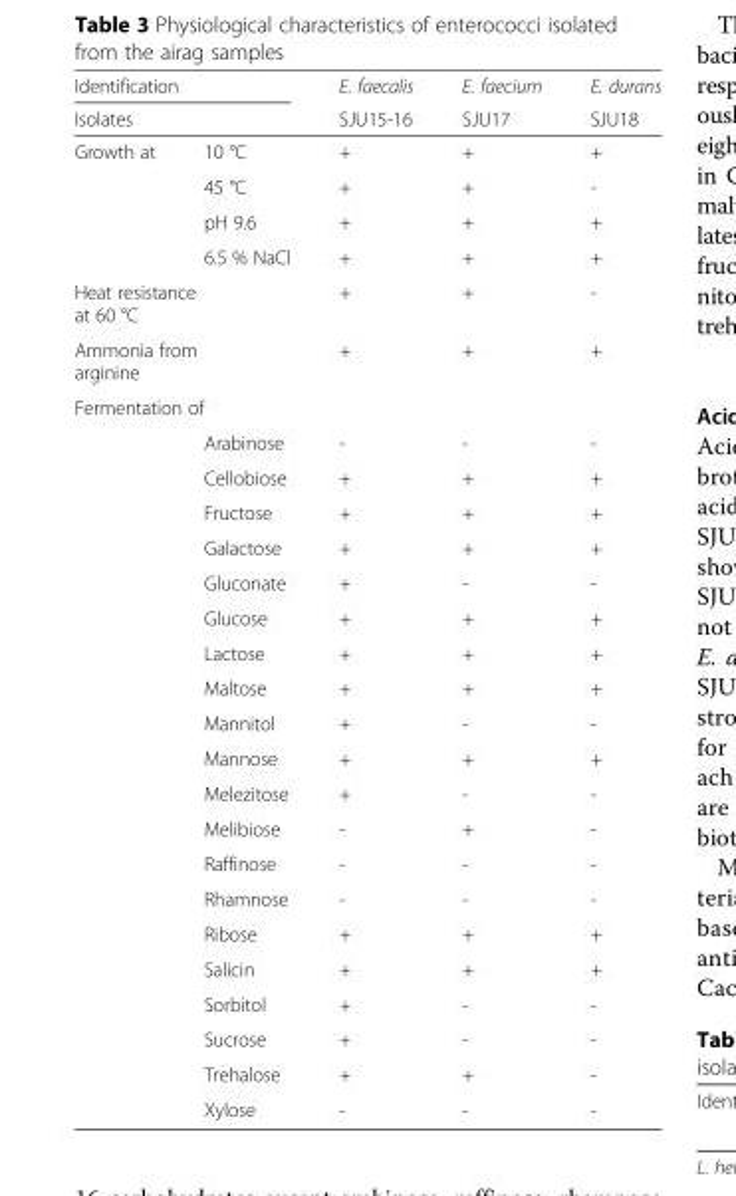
<table><thead><tr><td rowspan="2" colspan="2">Identification Isolates</td><td rowspan="3">E. faecalis SJU15-16 +</td><td rowspan="3">E. faecium SJU17 +</td><td rowspan="3">E. durans SJU18 +</td></tr><tr></tr><tr><td>Growth at</td><td>10 °C</td></tr></thead><tbody><tr><td></td><td>45 °C</td><td>+</td><td>+</td><td>-</td></tr><tr><td></td><td>pH 9.6</td><td>+</td><td>+</td><td>+</td></tr><tr><td></td><td>6.5 % NaCl</td><td>+</td><td>+</td><td>+</td></tr><tr><td colspan="2">Heat resistance at 60 °C</td><td>+</td><td>+</td><td>-</td></tr><tr><td colspan="2">Ammonia from arginine</td><td>+</td><td>+</td><td>+</td></tr><tr><td colspan="5">Fermentation of</td></tr><tr><td></td><td>Arabinose</td><td>-</td><td>-</td><td>-</td></tr><tr><td></td><td>Cellobiose</td><td>+</td><td>+</td><td>+</td></tr><tr><td></td><td>Fructose</td><td>+</td><td>+</td><td>+</td></tr><tr><td></td><td>Galactose</td><td>+</td><td>+</td><td>+</td></tr><tr><td></td><td>Gluconate</td><td>+</td><td>-</td><td>-</td></tr><tr><td></td><td>Glucose</td><td>+</td><td>+</td><td>+</td></tr><tr><td></td><td>Lactose</td><td>+</td><td>+</td><td>+</td></tr><tr><td></td><td>Maltose</td><td>+</td><td>+</td><td>+</td></tr><tr><td></td><td>Mannitol</td><td>+</td><td>-</td><td>-</td></tr><tr><td></td><td>Mannose</td><td>+</td><td>+</td><td>+</td></tr><tr><td></td><td>Melezitose</td><td>+</td><td>-</td><td>-</td></tr><tr><td></td><td>Melibiose</td><td>-</td><td>+</td><td>-</td></tr><tr><td></td><td>Raffinose</td><td>-</td><td>-</td><td>-</td></tr><tr><td></td><td>Rhamnose</td><td>-</td><td>-</td><td>-</td></tr><tr><td></td><td>Ribose</td><td>+</td><td>+</td><td>+</td></tr><tr><td></td><td>Salicin</td><td>+</td><td>+</td><td>+</td></tr><tr><td></td><td>Sorbitol</td><td>+</td><td>-</td><td>-</td></tr><tr><td></td><td>Sucrose</td><td>+</td><td>-</td><td>-</td></tr><tr><td></td><td>Trehalose</td><td>+</td><td>+</td><td>-</td></tr><tr><td></td><td>Xylose</td><td>-</td><td>-</td><td>-</td></tr></tbody></table>